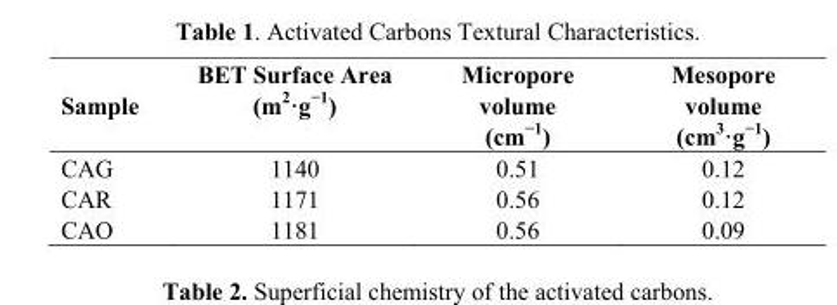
<table><thead><tr><td>Sample</td><td>BET Surface Area (m<sup>2</sup>·g<sup>−1</sup>)</td><td>Micropore volume (cm<sup>−1</sup>)</td><td>Mesopore volume (cm<sup>3</sup>·g<sup>−1</sup>)</td></tr></thead><tbody><tr><td>CAG</td><td>1140</td><td>0.51</td><td>0.12</td></tr><tr><td>CAR</td><td>1171</td><td>0.56</td><td>0.12</td></tr><tr><td>CAO</td><td>1181</td><td>0.56</td><td>0.09</td></tr></tbody></table>